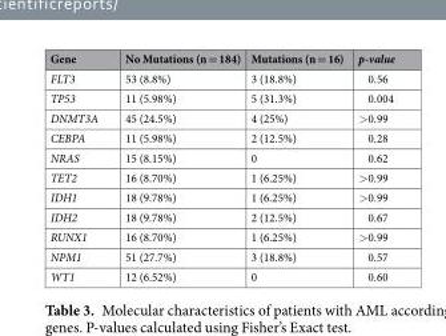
<table><thead><tr><td>Gene</td><td>No Mutations (n = 184)</td><td>Mutations (n = 16)</td><td>p-value</td></tr></thead><tbody><tr><td>FLT3</td><td>53 (8.8%)</td><td>3 (18.8%)</td><td>0.56</td></tr><tr><td>TP53</td><td>11 (5.98%)</td><td>5 (31.3%)</td><td>0.004</td></tr><tr><td>DNMT3A</td><td>45 (24.5%)</td><td>4 (25%)</td><td>&gt;0.99</td></tr><tr><td>CEBPA</td><td>11 (5.98%)</td><td>2 (12.5%)</td><td>0.28</td></tr><tr><td>NRAS</td><td>15 (8.15%)</td><td>0</td><td>0.62</td></tr><tr><td>TET2</td><td>16 (8.70%)</td><td>1 (6.25%)</td><td>&gt;0.99</td></tr><tr><td>IDH1</td><td>18 (9.78%)</td><td>1 (6.25%)</td><td>&gt;0.99</td></tr><tr><td>IDH2</td><td>18 (9.78%)</td><td>2 (12.5%)</td><td>0.67</td></tr><tr><td>RUNX1</td><td>16 (8.70%)</td><td>1 (6.25%)</td><td>&gt;0.99</td></tr><tr><td>NPM1</td><td>51 (27.7%)</td><td>3 (18.8%)</td><td>0.57</td></tr><tr><td>WT1</td><td>12 (6.52%)</td><td>0</td><td>0.60</td></tr></tbody></table>